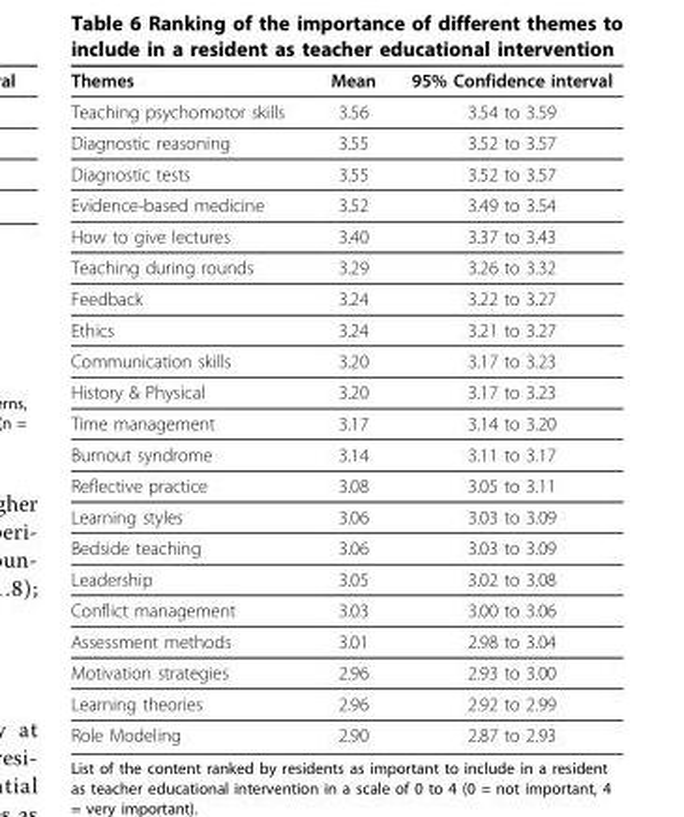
<table><thead><tr><td>Themes</td><td>Mean</td><td>95% Confidence interval</td></tr></thead><tbody><tr><td>Teaching psychomotor skills</td><td>3.56</td><td>3.54 to 3.59</td></tr><tr><td>Diagnostic reasoning</td><td>3.55</td><td>3.52 to 3.57</td></tr><tr><td>Diagnostic tests</td><td>3.55</td><td>3.52 to 3.57</td></tr><tr><td>Evidence-based medicine</td><td>3.52</td><td>3.49 to 3.54</td></tr><tr><td>How to give lectures</td><td>3.40</td><td>3.37 to 3.43</td></tr><tr><td>Teaching during rounds</td><td>3.29</td><td>3.26 to 3.32</td></tr><tr><td>Feedback</td><td>3.24</td><td>3.22 to 3.27</td></tr><tr><td>Ethics</td><td>3.24</td><td>3.21 to 3.27</td></tr><tr><td>Communication skills</td><td>3.20</td><td>3.17 to 3.23</td></tr><tr><td>History &amp; Physical</td><td>3.20</td><td>3.17 to 3.23</td></tr><tr><td>Time management</td><td>3.17</td><td>3.14 to 3.20</td></tr><tr><td>Burnout syndrome</td><td>3.14</td><td>3.11 to 3.17</td></tr><tr><td>Reflective practice</td><td>3.08</td><td>3.05 to 3.11</td></tr><tr><td>Learning styles</td><td>3.06</td><td>3.03 to 3.09</td></tr><tr><td>Bedside teaching</td><td>3.06</td><td>3.03 to 3.09</td></tr><tr><td>Leadership</td><td>3.05</td><td>3.02 to 3.08</td></tr><tr><td>Conflict management</td><td>3.03</td><td>3.00 to 3.06</td></tr><tr><td>Assessment methods</td><td>3.01</td><td>2.98 to 3.04</td></tr><tr><td>Motivation strategies</td><td>2.96</td><td>2.93 to 3.00</td></tr><tr><td>Learning theories</td><td>2.96</td><td>2.92 to 2.99</td></tr><tr><td>Role Modeling</td><td>2.90</td><td>2.87 to 2.93</td></tr></tbody></table>